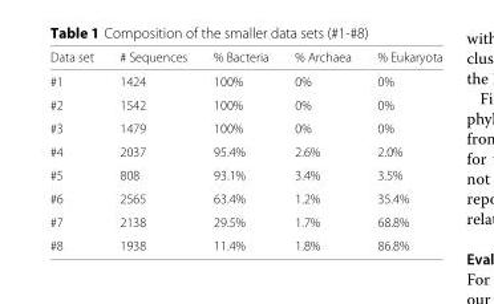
<table><thead><tr><td>Data set</td><td># Sequences</td><td>% Bacteria</td><td>% Archaea</td><td>% Eukaryota</td></tr></thead><tbody><tr><td>#1</td><td>1424</td><td>100%</td><td>0%</td><td>0%</td></tr><tr><td>#2</td><td>1542</td><td>100%</td><td>0%</td><td>0%</td></tr><tr><td>#3</td><td>1479</td><td>100%</td><td>0%</td><td>0%</td></tr><tr><td>#4</td><td>2037</td><td>95.4%</td><td>2.6%</td><td>2.0%</td></tr><tr><td>#5</td><td>808</td><td>93.1%</td><td>3.4%</td><td>3.5%</td></tr><tr><td>#6</td><td>2565</td><td>63.4%</td><td>1.2%</td><td>35.4%</td></tr><tr><td>#7</td><td>2138</td><td>29.5%</td><td>1.7%</td><td>68.8%</td></tr><tr><td>#8</td><td>1938</td><td>11.4%</td><td>1.8%</td><td>86.8%</td></tr></tbody></table>